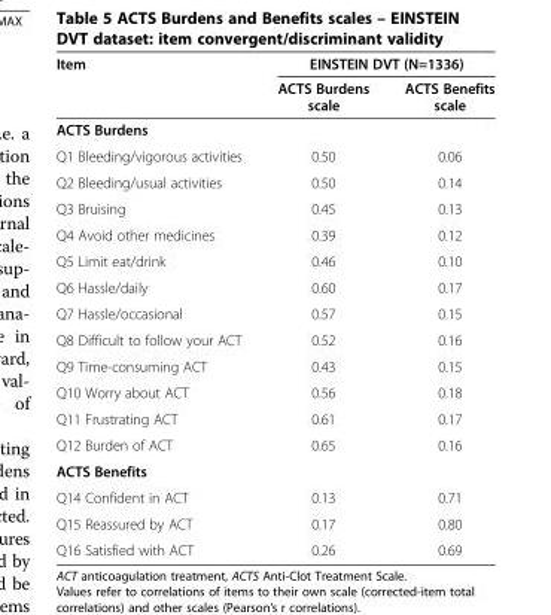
<table><thead><tr><td rowspan="2">Item</td><td colspan="2">EINSTEIN DVT (N=1336)</td></tr><tr><td>ACTS Burdens scale</td><td>ACTS Benefits scale</td></tr></thead><tbody><tr><td colspan="3">ACTS Burdens</td></tr><tr><td>Q1 Bleeding/vigorous activities</td><td>0.50</td><td>0.06</td></tr><tr><td>Q2 Bleeding/usual activities</td><td>0.50</td><td>0.14</td></tr><tr><td>Q3 Bruising</td><td>0.45</td><td>0.13</td></tr><tr><td>Q4 Avoid other medicines</td><td>0.39</td><td>0.12</td></tr><tr><td>Q5 Limit eat/drink</td><td>0.46</td><td>0.10</td></tr><tr><td>Q6 Hassle/daily</td><td>0.60</td><td>0.17</td></tr><tr><td>Q7 Hassle/occasional</td><td>0.57</td><td>0.15</td></tr><tr><td>Q8 Difficult to follow your ACT</td><td>0.52</td><td>0.16</td></tr><tr><td>Q9 Time-consuming ACT</td><td>0.43</td><td>0.15</td></tr><tr><td>Q10 Worry about ACT</td><td>0.56</td><td>0.18</td></tr><tr><td>Q11 Frustrating ACT</td><td>0.61</td><td>0.17</td></tr><tr><td>Q12 Burden of ACT</td><td>0.65</td><td>0.16</td></tr><tr><td colspan="3">ACTS Benefits</td></tr><tr><td>Q14 Confident in ACT</td><td>0.13</td><td>0.71</td></tr><tr><td>Q15 Reassured by ACT</td><td>0.17</td><td>0.80</td></tr><tr><td>Q16 Satisfied with ACT</td><td>0.26</td><td>0.69</td></tr></tbody></table>